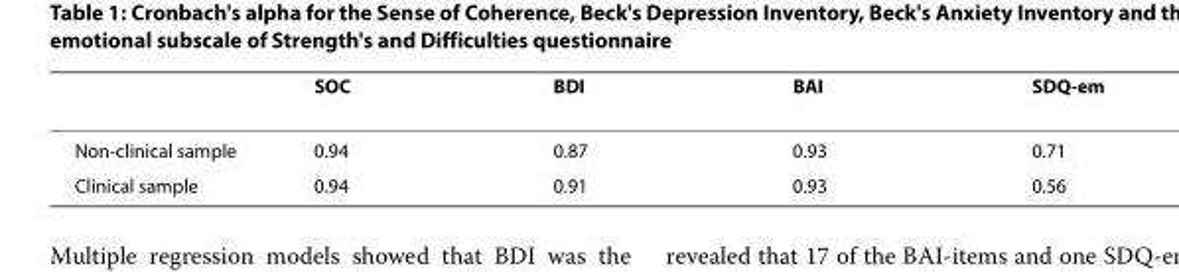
<table><thead><tr><td></td><td>SOC</td><td>BDI</td><td>BAI</td><td>SDQ-em</td></tr></thead><tbody><tr><td>Non-clinical sample</td><td>0.94</td><td>0.87</td><td>0.93</td><td>0.71</td></tr><tr><td>Clinical sample</td><td>0.94</td><td>0.91</td><td>0.93</td><td>0.56</td></tr></tbody></table>